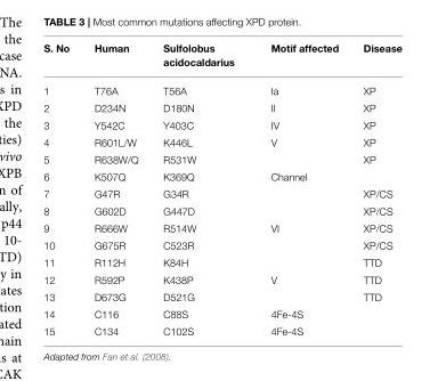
<table><thead><tr><td>S. No</td><td>Human</td><td>Sulfolobus acidocaldarius</td><td>Motif affected</td><td>Disease</td></tr></thead><tbody><tr><td>1</td><td>T76A</td><td>T56A</td><td>Ia</td><td>XP</td></tr><tr><td>2</td><td>D234N</td><td>D180N</td><td>II</td><td>XP</td></tr><tr><td>3</td><td>Y542C</td><td>Y403C</td><td>IV</td><td>XP</td></tr><tr><td>4</td><td>R601L/W</td><td>K446L</td><td>V</td><td>XP</td></tr><tr><td>5</td><td>R638W/Q</td><td>R531W</td><td></td><td>XP</td></tr><tr><td>6</td><td>K507Q</td><td>K369Q</td><td>Channel</td><td></td></tr><tr><td>7</td><td>G47R</td><td>G34R</td><td></td><td>XP/CS</td></tr><tr><td>8</td><td>G602D</td><td>G447D</td><td></td><td>XP/CS</td></tr><tr><td>9</td><td>R666W</td><td>R514W</td><td>VI</td><td>XP/CS</td></tr><tr><td>10</td><td>G675R</td><td>C523R</td><td></td><td>XP/CS</td></tr><tr><td>11</td><td>R112H</td><td>K84H</td><td></td><td>TTD</td></tr><tr><td>12</td><td>R592P</td><td>K438P</td><td>V</td><td>TTD</td></tr><tr><td>13</td><td>D673G</td><td>D521G</td><td></td><td>TTD</td></tr><tr><td>14</td><td>C116</td><td>C88S</td><td>4Fe-4S</td><td></td></tr><tr><td>15</td><td>C134</td><td>C102S</td><td>4Fe-4S</td><td></td></tr></tbody></table>